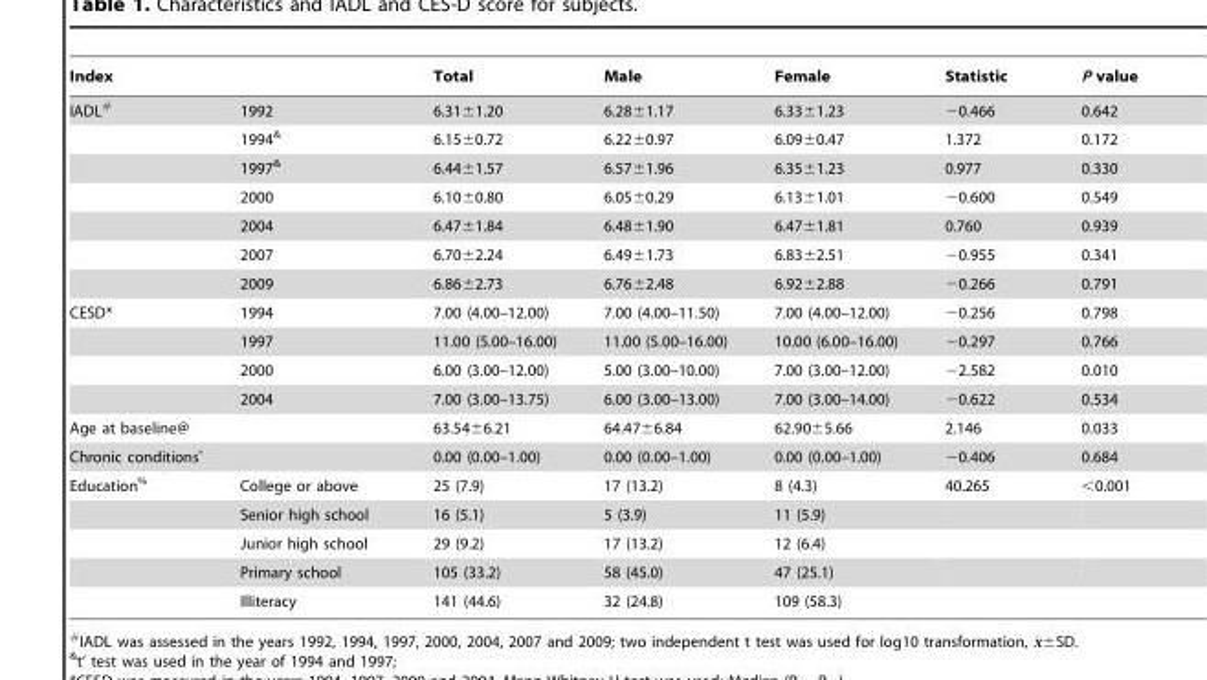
<table><thead><tr><td>Index</td><td></td><td>Total</td><td>Male</td><td>Female</td><td>Statistic</td><td>P value</td></tr></thead><tbody><tr><td rowspan="7">IADL#</td><td>1992</td><td>6.31±1.20</td><td>6.28±1.17</td><td>6.33±1.23</td><td>−0.466</td><td>0.642</td></tr><tr><td>1994&amp;</td><td>6.15±0.72</td><td>6.22±0.97</td><td>6.09±0.47</td><td>1.372</td><td>0.172</td></tr><tr><td>1997&amp;</td><td>6.44±1.57</td><td>6.57±1.96</td><td>6.35±1.23</td><td>0.977</td><td>0.330</td></tr><tr><td>2000</td><td>6.10±0.80</td><td>6.05±0.29</td><td>6.13±1.01</td><td>−0.600</td><td>0.549</td></tr><tr><td>2004</td><td>6.47±1.84</td><td>6.48±1.90</td><td>6.47±1.81</td><td>0.760</td><td>0.939</td></tr><tr><td>2007</td><td>6.70±2.24</td><td>6.49±1.73</td><td>6.83±2.51</td><td>−0.955</td><td>0.341</td></tr><tr><td>2009</td><td>6.86±2.73</td><td>6.76±2.48</td><td>6.92±2.88</td><td>−0.266</td><td>0.791</td></tr><tr><td rowspan="4">CESD*</td><td>1994</td><td>7.00 (4.00–12.00)</td><td>7.00 (4.00–11.50)</td><td>7.00 (4.00–12.00)</td><td>−0.256</td><td>0.798</td></tr><tr><td>1997</td><td>11.00 (5.00–16.00)</td><td>11.00 (5.00–16.00)</td><td>10.00 (6.00–16.00)</td><td>−0.297</td><td>0.766</td></tr><tr><td>2000</td><td>6.00 (3.00–12.00)</td><td>5.00 (3.00–10.00)</td><td>7.00 (3.00–12.00)</td><td>−2.582</td><td>0.010</td></tr><tr><td>2004</td><td>7.00 (3.00–13.75)</td><td>6.00 (3.00–13.00)</td><td>7.00 (3.00–14.00)</td><td>−0.622</td><td>0.534</td></tr><tr><td>Age at baseline@</td><td></td><td>63.54±6.21</td><td>64.47±6.84</td><td>62.90±5.66</td><td>2.146</td><td>0.033</td></tr><tr><td>Chronic conditionsˆ</td><td></td><td>0.00 (0.00–1.00)</td><td>0.00 (0.00–1.00)</td><td>0.00 (0.00–1.00)</td><td>−0.406</td><td>0.684</td></tr><tr><td rowspan="5">Education%</td><td>College or above</td><td>25 (7.9)</td><td>17 (13.2)</td><td>8 (4.3)</td><td>40.265</td><td>&lt;0.001</td></tr><tr><td>Senior high school</td><td>16 (5.1)</td><td>5 (3.9)</td><td>11 (5.9)</td><td></td><td></td></tr><tr><td>Junior high school</td><td>29 (9.2)</td><td>17 (13.2)</td><td>12 (6.4)</td><td></td><td></td></tr><tr><td>Primary school</td><td>105 (33.2)</td><td>58 (45.0)</td><td>47 (25.1)</td><td></td><td></td></tr><tr><td>Illiteracy</td><td>141 (44.6)</td><td>32 (24.8)</td><td>109 (58.3)</td><td></td><td></td></tr></tbody></table>